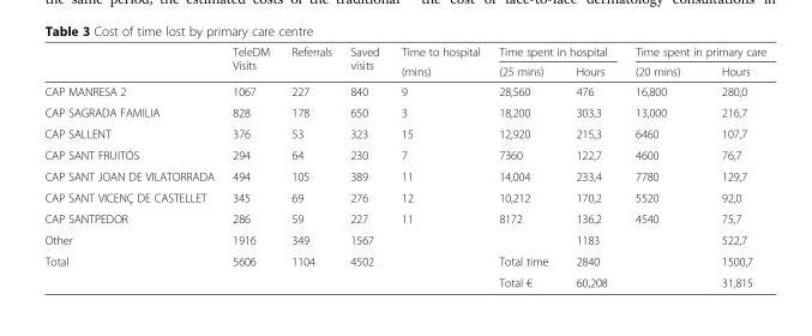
<table><thead><tr><td rowspan="2"></td><td rowspan="2">TeleDM Visits</td><td rowspan="2">Referrals</td><td rowspan="2">Saved visits</td><td rowspan="2">Time to hospital (mins)</td><td colspan="2">Time spent in hospital</td><td colspan="2">Time spent in primary care</td></tr><tr><td>(25 mins)</td><td>Hours</td><td>(20 mins)</td><td>Hours</td></tr></thead><tbody><tr><td>CAP MANRESA 2</td><td>1067</td><td>227</td><td>840</td><td>9</td><td>28,560</td><td>476</td><td>16,800</td><td>280,0</td></tr><tr><td>CAP SAGRADA FAMILIA</td><td>828</td><td>178</td><td>650</td><td>3</td><td>18,200</td><td>303,3</td><td>13,000</td><td>216,7</td></tr><tr><td>CAP SALLENT</td><td>376</td><td>53</td><td>323</td><td>15</td><td>12,920</td><td>215,3</td><td>6460</td><td>107,7</td></tr><tr><td>CAP SANT FRUITÓS</td><td>294</td><td>64</td><td>230</td><td>7</td><td>7360</td><td>122,7</td><td>4600</td><td>76,7</td></tr><tr><td>CAP SANT JOAN DE VILATORRADA</td><td>494</td><td>105</td><td>389</td><td>11</td><td>14,004</td><td>233,4</td><td>7780</td><td>129,7</td></tr><tr><td>CAP SANT VICENÇ DE CASTELLET</td><td>345</td><td>69</td><td>276</td><td>12</td><td>10,212</td><td>170,2</td><td>5520</td><td>92,0</td></tr><tr><td>CAP SANTPEDOR</td><td>286</td><td>59</td><td>227</td><td>11</td><td>8172</td><td>136,2</td><td>4540</td><td>75,7</td></tr><tr><td>Other</td><td>1916</td><td>349</td><td>1567</td><td></td><td></td><td>1183</td><td></td><td>522,7</td></tr><tr><td rowspan="2">Total</td><td>5606</td><td>1104</td><td>4502</td><td></td><td>Total time</td><td>2840</td><td></td><td>1500,7</td></tr><tr><td></td><td></td><td></td><td></td><td>Total €</td><td>60,208</td><td></td><td>31,815</td></tr></tbody></table>